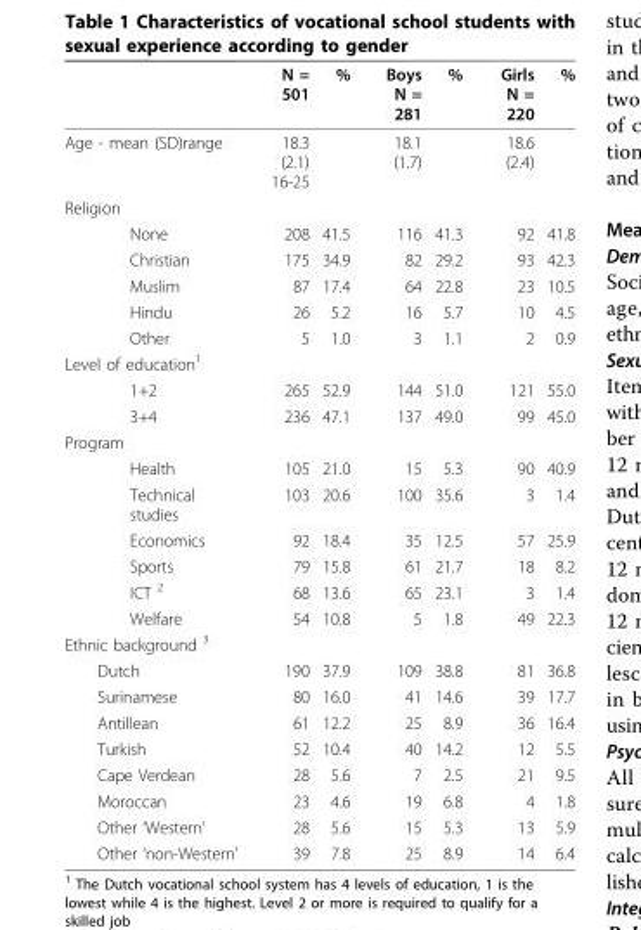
<table><thead><tr><td></td><td>N = 501</td><td>%</td><td>Boys N = 281</td><td>%</td><td>Girls N = 220</td><td>%</td></tr></thead><tbody><tr><td>Age - mean (SD)range</td><td>18.3 (2.1) 16-25</td><td></td><td>18.1 (1.7)</td><td></td><td>18.6 (2.4)</td><td></td></tr><tr><td colspan="7">Religion</td></tr><tr><td>None</td><td>208</td><td>41.5</td><td>116</td><td>41.3</td><td>92</td><td>41.8</td></tr><tr><td>Christian</td><td>175</td><td>34.9</td><td>82</td><td>29.2</td><td>93</td><td>42.3</td></tr><tr><td>Muslim</td><td>87</td><td>17.4</td><td>64</td><td>22.8</td><td>23</td><td>10.5</td></tr><tr><td>Hindu</td><td>26</td><td>5.2</td><td>16</td><td>5.7</td><td>10</td><td>4.5</td></tr><tr><td>Other</td><td>5</td><td>1.0</td><td>3</td><td>1.1</td><td>2</td><td>0.9</td></tr><tr><td colspan="7">Level of education<sup>1</sup></td></tr><tr><td>1+2</td><td>265</td><td>52.9</td><td>144</td><td>51.0</td><td>121</td><td>55.0</td></tr><tr><td>3+4</td><td>236</td><td>47.1</td><td>137</td><td>49.0</td><td>99</td><td>45.0</td></tr><tr><td colspan="7">Program</td></tr><tr><td>Health</td><td>105</td><td>21.0</td><td>15</td><td>5.3</td><td>90</td><td>40.9</td></tr><tr><td>Technical studies</td><td>103</td><td>20.6</td><td>100</td><td>35.6</td><td>3</td><td>1.4</td></tr><tr><td>Economics</td><td>92</td><td>18.4</td><td>35</td><td>12.5</td><td>57</td><td>25.9</td></tr><tr><td>Sports</td><td>79</td><td>15.8</td><td>61</td><td>21.7</td><td>18</td><td>8.2</td></tr><tr><td>ICT <sup>2</sup></td><td>68</td><td>13.6</td><td>65</td><td>23.1</td><td>3</td><td>1.4</td></tr><tr><td>Welfare</td><td>54</td><td>10.8</td><td>5</td><td>1.8</td><td>49</td><td>22.3</td></tr><tr><td colspan="7">Ethnic background <sup>3</sup></td></tr><tr><td>Dutch</td><td>190</td><td>37.9</td><td>109</td><td>38.8</td><td>81</td><td>36.8</td></tr><tr><td>Surinamese</td><td>80</td><td>16.0</td><td>41</td><td>14.6</td><td>39</td><td>17.7</td></tr><tr><td>Antillean</td><td>61</td><td>12.2</td><td>25</td><td>8.9</td><td>36</td><td>16.4</td></tr><tr><td>Turkish</td><td>52</td><td>10.4</td><td>40</td><td>14.2</td><td>12</td><td>5.5</td></tr><tr><td>Cape Verdean</td><td>28</td><td>5.6</td><td>7</td><td>2.5</td><td>21</td><td>9.5</td></tr><tr><td>Moroccan</td><td>23</td><td>4.6</td><td>19</td><td>6.8</td><td>4</td><td>1.8</td></tr><tr><td>Other ‘Western’</td><td>28</td><td>5.6</td><td>15</td><td>5.3</td><td>13</td><td>5.9</td></tr><tr><td>Other ‘non-Western’</td><td>39</td><td>7.8</td><td>25</td><td>8.9</td><td>14</td><td>6.4</td></tr></tbody></table>